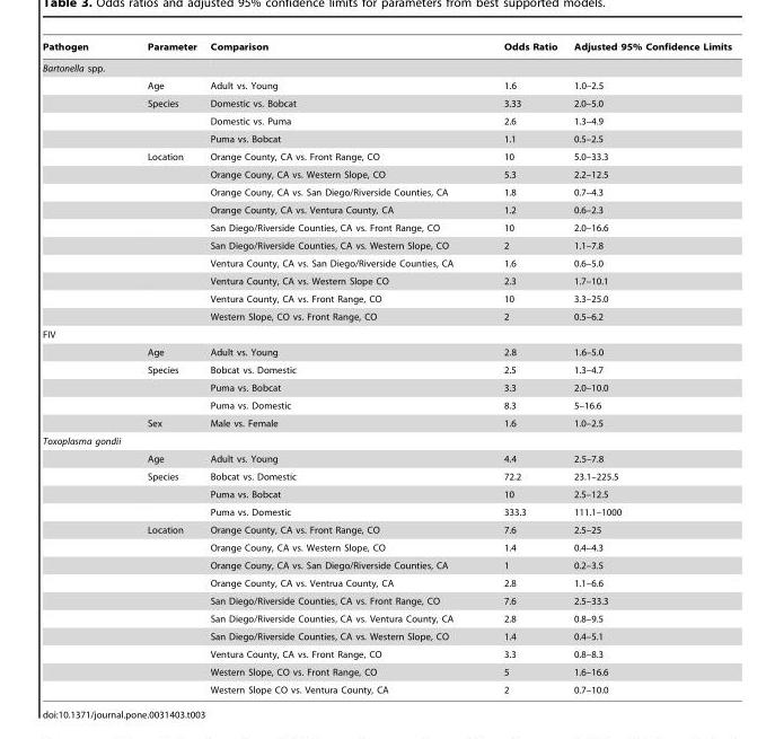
<table><thead><tr><td>Pathogen</td><td>Parameter</td><td>Comparison</td><td>Odds Ratio</td><td>Adjusted 95% Confidence Limits</td></tr></thead><tbody><tr><td colspan="5">Bartonella spp.</td></tr><tr><td></td><td>Age</td><td>Adult vs. Young</td><td>1.6</td><td>1.0–2.5</td></tr><tr><td></td><td>Species</td><td>Domestic vs. Bobcat</td><td>3.33</td><td>2.0–5.0</td></tr><tr><td></td><td></td><td>Domestic vs. Puma</td><td>2.6</td><td>1.3–4.9</td></tr><tr><td></td><td></td><td>Puma vs. Bobcat</td><td>1.1</td><td>0.5–2.5</td></tr><tr><td></td><td>Location</td><td>Orange County, CA vs. Front Range, CO</td><td>10</td><td>5.0–33.3</td></tr><tr><td></td><td></td><td>Orange Couny, CA vs. Western Slope, CO</td><td>5.3</td><td>2.2–12.5</td></tr><tr><td></td><td></td><td>Orange Couny, CA vs. San Diego/Riverside Counties, CA</td><td>1.8</td><td>0.7–4.3</td></tr><tr><td></td><td></td><td>Orange County, CA vs. Ventura County, CA</td><td>1.2</td><td>0.6–2.3</td></tr><tr><td></td><td></td><td>San Diego/Riverside Counties, CA vs. Front Range, CO</td><td>10</td><td>2.0–16.6</td></tr><tr><td></td><td></td><td>San Diego/Riverside Counties, CA vs. Western Slope, CO</td><td>2</td><td>1.1–7.8</td></tr><tr><td></td><td></td><td>Ventura County, CA vs. San Diego/Riverside Counties, CA</td><td>1.6</td><td>0.6–5.0</td></tr><tr><td></td><td></td><td>Ventura County, CA vs. Western Slope CO</td><td>2.3</td><td>1.7–10.1</td></tr><tr><td></td><td></td><td>Ventura County, CA vs. Front Range, CO</td><td>10</td><td>3.3–25.0</td></tr><tr><td></td><td></td><td>Western Slope, CO vs. Front Range, CO</td><td>2</td><td>0.5–6.2</td></tr><tr><td colspan="5">FIV</td></tr><tr><td></td><td>Age</td><td>Adult vs. Young</td><td>2.8</td><td>1.6–5.0</td></tr><tr><td></td><td>Species</td><td>Bobcat vs. Domestic</td><td>2.5</td><td>1.3–4.7</td></tr><tr><td></td><td></td><td>Puma vs. Bobcat</td><td>3.3</td><td>2.0–10.0</td></tr><tr><td></td><td></td><td>Puma vs. Domestic</td><td>8.3</td><td>5–16.6</td></tr><tr><td></td><td>Sex</td><td>Male vs. Female</td><td>1.6</td><td>1.0–2.5</td></tr><tr><td colspan="5">Toxoplasma gondii</td></tr><tr><td></td><td>Age</td><td>Adult vs. Young</td><td>4.4</td><td>2.5–7.8</td></tr><tr><td></td><td>Species</td><td>Bobcat vs. Domestic</td><td>72.2</td><td>23.1–225.5</td></tr><tr><td></td><td></td><td>Puma vs. Bobcat</td><td>10</td><td>2.5–12.5</td></tr><tr><td></td><td></td><td>Puma vs. Domestic</td><td>333.3</td><td>111.1–1000</td></tr><tr><td></td><td>Location</td><td>Orange County, CA vs. Front Range, CO</td><td>7.6</td><td>2.5–25</td></tr><tr><td></td><td></td><td>Orange Couny, CA vs. Western Slope, CO</td><td>1.4</td><td>0.4–4.3</td></tr><tr><td></td><td></td><td>Orange Couny, CA vs. San Diego/Riverside Counties, CA</td><td>1</td><td>0.2–3.5</td></tr><tr><td></td><td></td><td>Orange County, CA vs. Ventrua County, CA</td><td>2.8</td><td>1.1–6.6</td></tr><tr><td></td><td></td><td>San Diego/Riverside Counties, CA vs. Front Range, CO</td><td>7.6</td><td>2.5–33.3</td></tr><tr><td></td><td></td><td>San Diego/Riverside Counties, CA vs. Ventura County, CA</td><td>2.8</td><td>0.8–9.5</td></tr><tr><td></td><td></td><td>San Diego/Riverside Counties, CA vs. Western Slope, CO</td><td>1.4</td><td>0.4–5.1</td></tr><tr><td></td><td></td><td>Ventura County, CA vs. Front Range, CO</td><td>3.3</td><td>0.8–8.3</td></tr><tr><td></td><td></td><td>Western Slope, CO vs. Front Range, CO</td><td>5</td><td>1.6–16.6</td></tr><tr><td></td><td></td><td>Western Slope CO vs. Ventura County, CA</td><td>2</td><td>0.7–10.0</td></tr></tbody></table>